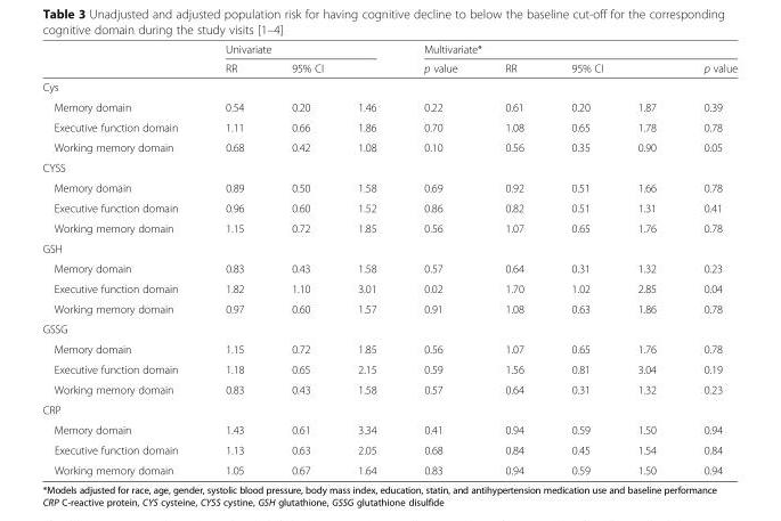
<table><thead><tr><td rowspan="2"></td><td colspan="3">Univariate</td><td colspan="5">Multivariate*</td></tr><tr><td>RR</td><td colspan="2">95% CI</td><td>p value</td><td>RR</td><td colspan="2">95% CI</td><td>p value</td></tr><tr><td colspan="9">Cys</td></tr><tr><td>Memory domain</td><td>0.54</td><td>0.20</td><td>1.46</td><td>0.22</td><td>0.61</td><td>0.20</td><td>1.87</td><td>0.39</td></tr></thead><tbody><tr><td>Executive function domain</td><td>1.11</td><td>0.66</td><td>1.86</td><td>0.70</td><td>1.08</td><td>0.65</td><td>1.78</td><td>0.78</td></tr><tr><td>Working memory domain</td><td>0.68</td><td>0.42</td><td>1.08</td><td>0.10</td><td>0.56</td><td>0.35</td><td>0.90</td><td>0.05</td></tr><tr><td colspan="9">CYSS</td></tr><tr><td>Memory domain</td><td>0.89</td><td>0.50</td><td>1.58</td><td>0.69</td><td>0.92</td><td>0.51</td><td>1.66</td><td>0.78</td></tr><tr><td>Executive function domain</td><td>0.96</td><td>0.60</td><td>1.52</td><td>0.86</td><td>0.82</td><td>0.51</td><td>1.31</td><td>0.41</td></tr><tr><td>Working memory domain</td><td>1.15</td><td>0.72</td><td>1.85</td><td>0.56</td><td>1.07</td><td>0.65</td><td>1.76</td><td>0.78</td></tr><tr><td colspan="9">GSH</td></tr><tr><td>Memory domain</td><td>0.83</td><td>0.43</td><td>1.58</td><td>0.57</td><td>0.64</td><td>0.31</td><td>1.32</td><td>0.23</td></tr><tr><td>Executive function domain</td><td>1.82</td><td>1.10</td><td>3.01</td><td>0.02</td><td>1.70</td><td>1.02</td><td>2.85</td><td>0.04</td></tr><tr><td>Working memory domain</td><td>0.97</td><td>0.60</td><td>1.57</td><td>0.91</td><td>1.08</td><td>0.63</td><td>1.86</td><td>0.78</td></tr><tr><td colspan="9">GSSG</td></tr><tr><td>Memory domain</td><td>1.15</td><td>0.72</td><td>1.85</td><td>0.56</td><td>1.07</td><td>0.65</td><td>1.76</td><td>0.78</td></tr><tr><td>Executive function domain</td><td>1.18</td><td>0.65</td><td>2.15</td><td>0.59</td><td>1.56</td><td>0.81</td><td>3.04</td><td>0.19</td></tr><tr><td>Working memory domain</td><td>0.83</td><td>0.43</td><td>1.58</td><td>0.57</td><td>0.64</td><td>0.31</td><td>1.32</td><td>0.23</td></tr><tr><td colspan="9">CRP</td></tr><tr><td>Memory domain</td><td>1.43</td><td>0.61</td><td>3.34</td><td>0.41</td><td>0.94</td><td>0.59</td><td>1.50</td><td>0.94</td></tr><tr><td>Executive function domain</td><td>1.13</td><td>0.63</td><td>2.05</td><td>0.68</td><td>0.84</td><td>0.45</td><td>1.54</td><td>0.84</td></tr><tr><td>Working memory domain</td><td>1.05</td><td>0.67</td><td>1.64</td><td>0.83</td><td>0.94</td><td>0.59</td><td>1.50</td><td>0.94</td></tr></tbody></table>